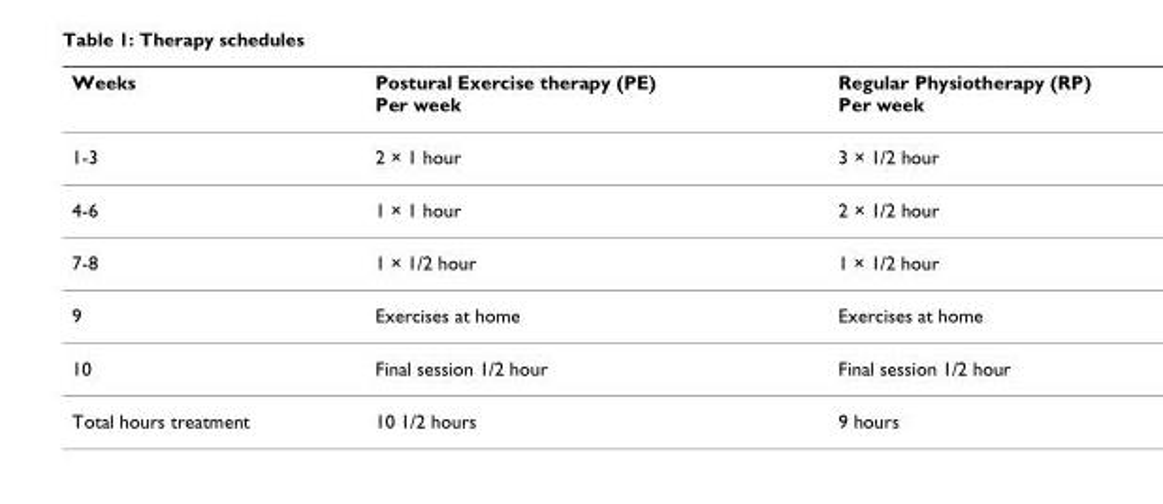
<table><thead><tr><td>Weeks</td><td>Postural Exercise therapy (PE) Per week</td><td>Regular Physiotherapy (RP) Per week</td></tr></thead><tbody><tr><td>1-3</td><td>2 × 1 hour</td><td>3 × 1/2 hour</td></tr><tr><td>4-6</td><td>1 × 1 hour</td><td>2 × 1/2 hour</td></tr><tr><td>7-8</td><td>1 × 1/2 hour</td><td>1 × 1/2 hour</td></tr><tr><td>9</td><td>Exercises at home</td><td>Exercises at home</td></tr><tr><td>10</td><td>Final session 1/2 hour</td><td>Final session 1/2 hour</td></tr><tr><td>Total hours treatment</td><td>10 1/2 hours</td><td>9 hours</td></tr></tbody></table>